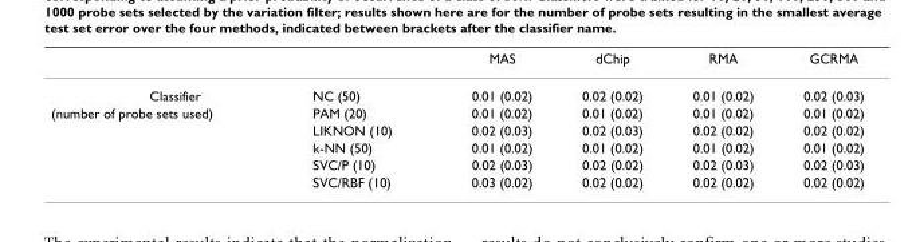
<table><thead><tr><td></td><td></td><td>MAS</td><td>dChip</td><td>RMA</td><td>GCRMA</td></tr></thead><tbody><tr><td>Classifier</td><td>NC (50)</td><td>0.01 (0.02)</td><td>0.02 (0.02)</td><td>0.01 (0.02)</td><td>0.02 (0.03)</td></tr><tr><td rowspan="5">(number of probe sets used)</td><td>PAM (20)</td><td>0.01 (0.02)</td><td>0.01 (0.02)</td><td>0.01 (0.02)</td><td>0.01 (0.02)</td></tr><tr><td>LIKNON (10)</td><td>0.02 (0.03)</td><td>0.02 (0.03)</td><td>0.02 (0.02)</td><td>0.02 (0.02)</td></tr><tr><td>k-NN (50)</td><td>0.01 (0.02)</td><td>0.01 (0.02)</td><td>0.01 (0.02)</td><td>0.01 (0.02)</td></tr><tr><td>SVC/P (10)</td><td>0.02 (0.03)</td><td>0.02 (0.02)</td><td>0.02 (0.03)</td><td>0.02 (0.03)</td></tr><tr><td>SVC/RBF (10)</td><td>0.03 (0.02)</td><td>0.02 (0.02)</td><td>0.02 (0.02)</td><td>0.02 (0.02)</td></tr></tbody></table>